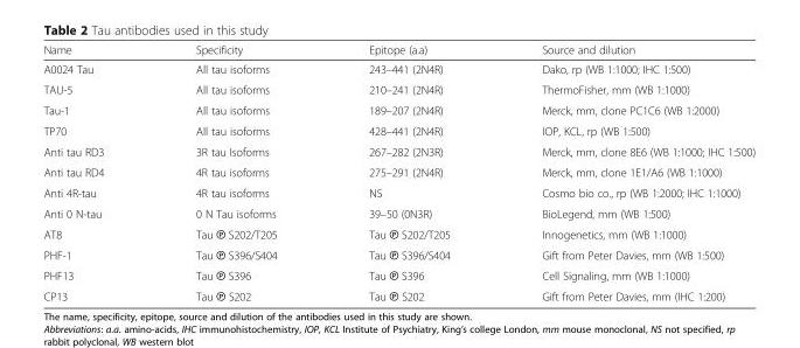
<table><thead><tr><td>Name</td><td>Specificity</td><td>Epitope (a.a)</td><td>Source and dilution</td></tr></thead><tbody><tr><td>A0024 Tau</td><td>All tau isoforms</td><td>243–441 (2N4R)</td><td>Dako, rp (WB 1:1000; IHC 1:500)</td></tr><tr><td>TAU-5</td><td>All tau isoforms</td><td>210–241 (2N4R)</td><td>ThermoFisher, mm (WB 1:1000)</td></tr><tr><td>Tau-1</td><td>All tau isoforms</td><td>189–207 (2N4R)</td><td>Merck, mm, clone PC1C6 (WB 1:2000)</td></tr><tr><td>TP70</td><td>All tau isoforms</td><td>428–441 (2N4R)</td><td>IOP, KCL, rp (WB 1:500)</td></tr><tr><td>Anti tau RD3</td><td>3R tau Isoforms</td><td>267–282 (2N3R)</td><td>Merck, mm, clone 8E6 (WB 1:1000; IHC 1:500)</td></tr><tr><td>Anti tau RD4</td><td>4R tau isoforms</td><td>275–291 (2N4R)</td><td>Merck, mm, clone 1E1/A6 (WB 1:1000)</td></tr><tr><td>Anti 4R-tau</td><td>4R tau isoforms</td><td>NS</td><td>Cosmo bio co., rp (WB 1:2000; IHC 1:1000)</td></tr><tr><td>Anti 0 N-tau</td><td>0 N Tau isoforms</td><td>39–50 (0N3R)</td><td>BioLegend, mm (WB 1:500)</td></tr><tr><td>AT8</td><td>Tau ℗ S202/T205</td><td>Tau ℗ S202/T205</td><td>Innogenetics, mm (WB 1:1000)</td></tr><tr><td>PHF-1</td><td>Tau ℗ S396/S404</td><td>Tau ℗ S396/S404</td><td>Gift from Peter Davies, mm (WB 1:500)</td></tr><tr><td>PHF13</td><td>Tau ℗ S396</td><td>Tau ℗ S396</td><td>Cell Signaling, mm (WB 1:1000)</td></tr><tr><td>CP13</td><td>Tau ℗ S202</td><td>Tau ℗ S202</td><td>Gift from Peter Davies, mm (IHC 1:200)</td></tr></tbody></table>